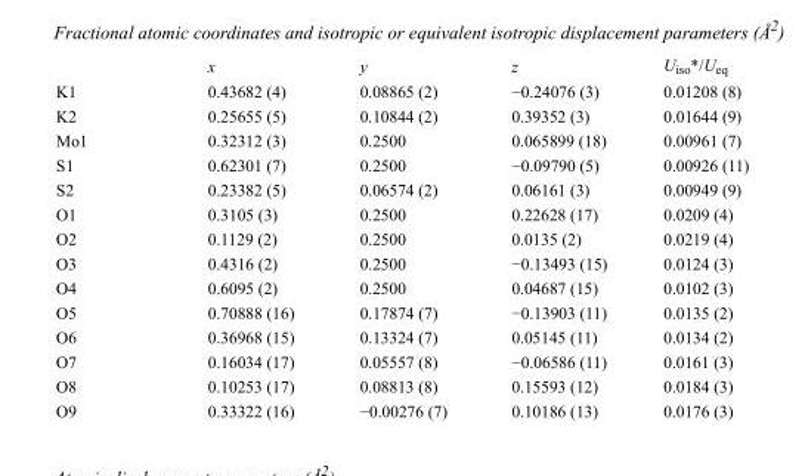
<table><thead><tr><td></td><td>x</td><td>y</td><td>z</td><td>U<sub>iso</sub>*/U<sub>eq</sub></td></tr></thead><tbody><tr><td>K1</td><td>0.43682 (4)</td><td>0.08865 (2)</td><td>−0.24076 (3)</td><td>0.01208 (8)</td></tr><tr><td>K2</td><td>0.25655 (5)</td><td>0.10844 (2)</td><td>0.39352 (3)</td><td>0.01644 (9)</td></tr><tr><td>Mo1</td><td>0.32312 (3)</td><td>0.2500</td><td>0.065899 (18)</td><td>0.00961 (7)</td></tr><tr><td>S1</td><td>0.62301 (7)</td><td>0.2500</td><td>−0.09790 (5)</td><td>0.00926 (11)</td></tr><tr><td>S2</td><td>0.23382 (5)</td><td>0.06574 (2)</td><td>0.06161 (3)</td><td>0.00949 (9)</td></tr><tr><td>O1</td><td>0.3105 (3)</td><td>0.2500</td><td>0.22628 (17)</td><td>0.0209 (4)</td></tr><tr><td>O2</td><td>0.1129 (2)</td><td>0.2500</td><td>0.0135 (2)</td><td>0.0219 (4)</td></tr><tr><td>O3</td><td>0.4316 (2)</td><td>0.2500</td><td>−0.13493 (15)</td><td>0.0124 (3)</td></tr><tr><td>O4</td><td>0.6095 (2)</td><td>0.2500</td><td>0.04687 (15)</td><td>0.0102 (3)</td></tr><tr><td>O5</td><td>0.70888 (16)</td><td>0.17874 (7)</td><td>−0.13903 (11)</td><td>0.0135 (2)</td></tr><tr><td>O6</td><td>0.36968 (15)</td><td>0.13324 (7)</td><td>0.05145 (11)</td><td>0.0134 (2)</td></tr><tr><td>O7</td><td>0.16034 (17)</td><td>0.05557 (8)</td><td>−0.06586 (11)</td><td>0.0161 (3)</td></tr><tr><td>O8</td><td>0.10253 (17)</td><td>0.08813 (8)</td><td>0.15593 (12)</td><td>0.0184 (3)</td></tr><tr><td>O9</td><td>0.33322 (16)</td><td>−0.00276 (7)</td><td>0.10186 (13)</td><td>0.0176 (3)</td></tr></tbody></table>